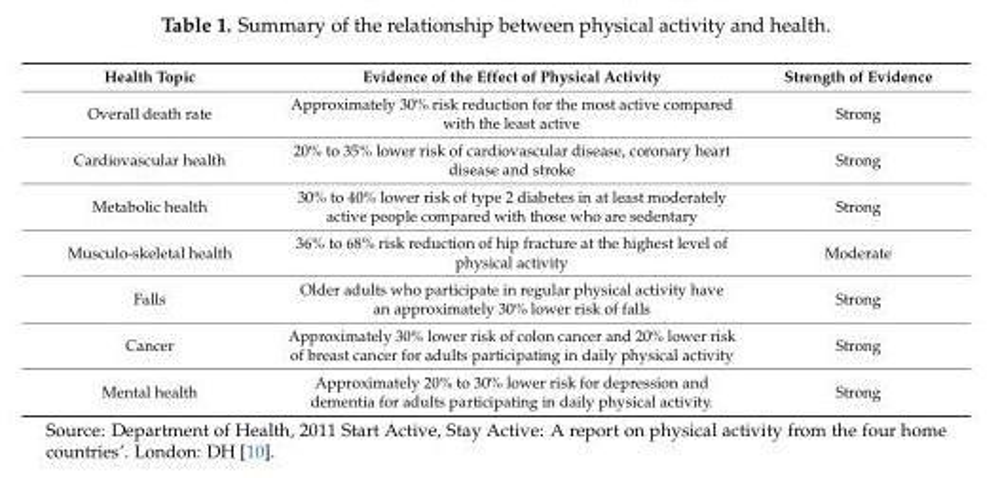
<table><thead><tr><td>Health Topic</td><td>Evidence of the Effect of Physical Activity</td><td>Strength of Evidence</td></tr></thead><tbody><tr><td>Overall death rate</td><td>Approximately 30% risk reduction for the most active compared with the least active</td><td>Strong</td></tr><tr><td>Cardiovascular health</td><td>20% to 35% lower risk of cardiovascular disease, coronary heart disease and stroke</td><td>Strong</td></tr><tr><td>Metabolic health</td><td>30% to 40% lower risk of type 2 diabetes in at least moderately active people compared with those who are sedentary</td><td>Strong</td></tr><tr><td>Musculo-skeletal health</td><td>36% to 68% risk reduction of hip fracture at the highest level of physical activity</td><td>Moderate</td></tr><tr><td>Falls</td><td>Older adults who participate in regular physical activity have an approximately 30% lower risk of falls</td><td>Strong</td></tr><tr><td>Cancer</td><td>Approximately 30% lower risk of colon cancer and 20% lower risk of breast cancer for adults participating in daily physical activity</td><td>Strong</td></tr><tr><td>Mental health</td><td>Approximately 20% to 30% lower risk for depression and dementia for adults participating in daily physical activity.</td><td>Strong</td></tr></tbody></table>